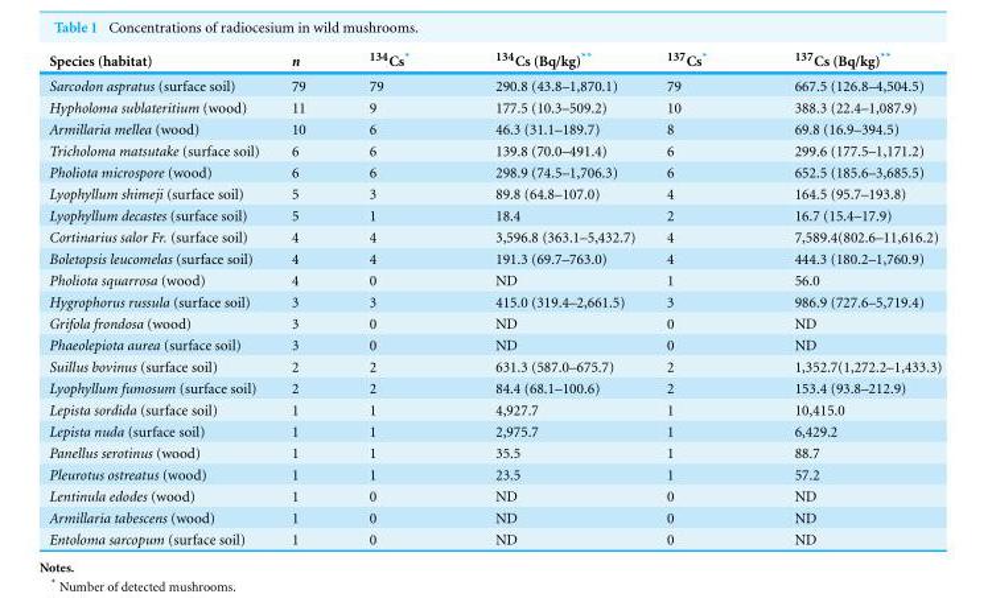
<table><thead><tr><td>Species (habitat)</td><td>n</td><td><sup>134</sup>Cs*</td><td><sup>134</sup>Cs (Bq/kg)**</td><td><sup>137</sup>Cs*</td><td><sup>137</sup>Cs (Bq/kg)**</td></tr></thead><tbody><tr><td>Sarcodon aspratus (surface soil)</td><td>79</td><td>79</td><td>290.8 (43.8–1,870.1)</td><td>79</td><td>667.5 (126.8–4,504.5)</td></tr><tr><td>Hypholoma sublateritium (wood)</td><td>11</td><td>9</td><td>177.5 (10.3–509.2)</td><td>10</td><td>388.3 (22.4–1,087.9)</td></tr><tr><td>Armillaria mellea (wood)</td><td>10</td><td>6</td><td>46.3 (31.1–189.7)</td><td>8</td><td>69.8 (16.9–394.5)</td></tr><tr><td>Tricholoma matsutake (surface soil)</td><td>6</td><td>6</td><td>139.8 (70.0–491.4)</td><td>6</td><td>299.6 (177.5–1,171.2)</td></tr><tr><td>Pholiota microspore (wood)</td><td>6</td><td>6</td><td>298.9 (74.5–1,706.3)</td><td>6</td><td>652.5 (185.6–3,685.5)</td></tr><tr><td>Lyophyllum shimeji (surface soil)</td><td>5</td><td>3</td><td>89.8 (64.8–107.0)</td><td>4</td><td>164.5 (95.7–193.8)</td></tr><tr><td>Lyophyllum decastes (surface soil)</td><td>5</td><td>1</td><td>18.4</td><td>2</td><td>16.7 (15.4–17.9)</td></tr><tr><td>Cortinarius salor Fr. (surface soil)</td><td>4</td><td>4</td><td>3,596.8 (363.1–5,432.7)</td><td>4</td><td>7,589.4(802.6–11,616.2)</td></tr><tr><td>Boletopsis leucomelas (surface soil)</td><td>4</td><td>4</td><td>191.3 (69.7–763.0)</td><td>4</td><td>444.3 (180.2–1,760.9)</td></tr><tr><td>Pholiota squarrosa (wood)</td><td>4</td><td>0</td><td>ND</td><td>1</td><td>56.0</td></tr><tr><td>Hygrophorus russula (surface soil)</td><td>3</td><td>3</td><td>415.0 (319.4–2,661.5)</td><td>3</td><td>986.9 (727.6–5,719.4)</td></tr><tr><td>Grifola frondosa (wood)</td><td>3</td><td>0</td><td>ND</td><td>0</td><td>ND</td></tr><tr><td>Phaeolepiota aurea (surface soil)</td><td>3</td><td>0</td><td>ND</td><td>0</td><td>ND</td></tr><tr><td>Suillus bovinus (surface soil)</td><td>2</td><td>2</td><td>631.3 (587.0–675.7)</td><td>2</td><td>1,352.7(1,272.2–1,433.3)</td></tr><tr><td>Lyophyllum fumosum (surface soil)</td><td>2</td><td>2</td><td>84.4 (68.1–100.6)</td><td>2</td><td>153.4 (93.8–212.9)</td></tr><tr><td>Lepista sordida (surface soil)</td><td>1</td><td>1</td><td>4,927.7</td><td>1</td><td>10,415.0</td></tr><tr><td>Lepista nuda (surface soil)</td><td>1</td><td>1</td><td>2,975.7</td><td>1</td><td>6,429.2</td></tr><tr><td>Panellus serotinus (wood)</td><td>1</td><td>1</td><td>35.5</td><td>1</td><td>88.7</td></tr><tr><td>Pleurotus ostreatus (wood)</td><td>1</td><td>1</td><td>23.5</td><td>1</td><td>57.2</td></tr><tr><td>Lentinula edodes (wood)</td><td>1</td><td>0</td><td>ND</td><td>0</td><td>ND</td></tr><tr><td>Armillaria tabescens (wood)</td><td>1</td><td>0</td><td>ND</td><td>0</td><td>ND</td></tr><tr><td>Entoloma sarcopum (surface soil)</td><td>1</td><td>0</td><td>ND</td><td>0</td><td>ND</td></tr></tbody></table>